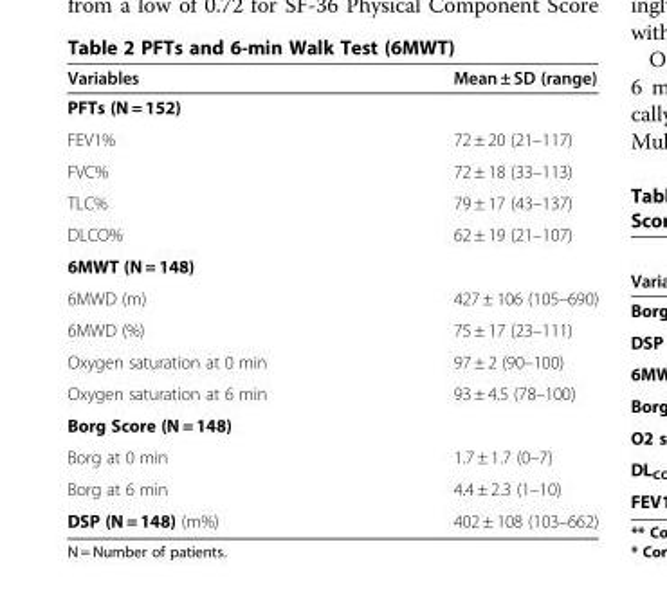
<table><thead><tr><td>Variables</td><td>Mean ± SD (range)</td></tr></thead><tbody><tr><td colspan="2">PFTs (N = 152)</td></tr><tr><td>FEV1%</td><td>72 ± 20 (21–117)</td></tr><tr><td>FVC%</td><td>72 ± 18 (33–113)</td></tr><tr><td>TLC%</td><td>79 ± 17 (43–137)</td></tr><tr><td>DLCO%</td><td>62 ± 19 (21–107)</td></tr><tr><td colspan="2">6MWT (N = 148)</td></tr><tr><td>6MWD (m)</td><td>427 ± 106 (105–690)</td></tr><tr><td>6MWD (%)</td><td>75 ± 17 (23–111)</td></tr><tr><td>Oxygen saturation at 0 min</td><td>97 ± 2 (90–100)</td></tr><tr><td>Oxygen saturation at 6 min</td><td>93 ± 4.5 (78–100)</td></tr><tr><td colspan="2">Borg Score (N = 148)</td></tr><tr><td>Borg at 0 min</td><td>1.7 ± 1.7 (0–7)</td></tr><tr><td>Borg at 6 min</td><td>4.4 ± 2.3 (1–10)</td></tr><tr><td>DSP (N = 148) (m%)</td><td>402 ± 108 (103–662)</td></tr></tbody></table>